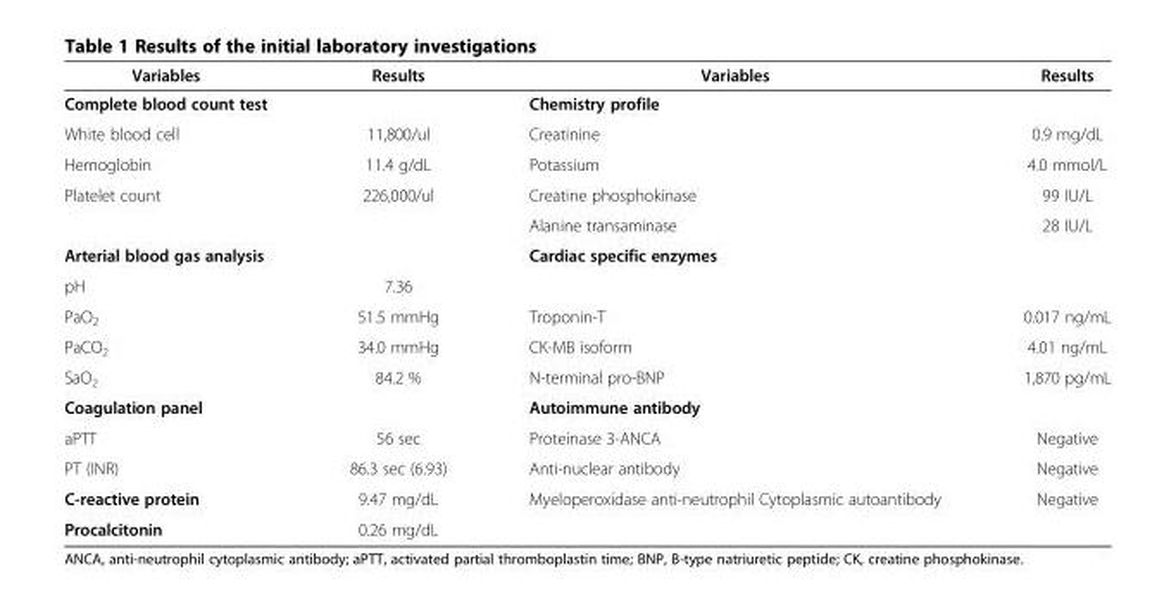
<table><thead><tr><td>Variables</td><td>Results</td><td>Variables</td><td>Results</td></tr></thead><tbody><tr><td>Complete blood count test</td><td></td><td>Chemistry profile</td><td></td></tr><tr><td>White blood cell</td><td>11,800/ul</td><td>Creatinine</td><td>0.9 mg/dL</td></tr><tr><td>Hemoglobin</td><td>11.4 g/dL</td><td>Potassium</td><td>4.0 mmol/L</td></tr><tr><td rowspan="2">Platelet count</td><td>226,000/ul</td><td>Creatine phosphokinase</td><td>99 IU/L</td></tr><tr><td></td><td>Alanine transaminase</td><td>28 IU/L</td></tr><tr><td>Arterial blood gas analysis</td><td></td><td>Cardiac specific enzymes</td><td></td></tr><tr><td>pH</td><td>7.36</td><td></td><td></td></tr><tr><td>PaO<sub>2</sub></td><td>51.5 mmHg</td><td>Troponin-T</td><td>0.017 ng/mL</td></tr><tr><td>PaCO<sub>2</sub></td><td>34.0 mmHg</td><td>CK-MB isoform</td><td>4.01 ng/mL</td></tr><tr><td>SaO<sub>2</sub></td><td>84.2 %</td><td>N-terminal pro-BNP</td><td>1,870 pg/mL</td></tr><tr><td>Coagulation panel</td><td></td><td>Autoimmune antibody</td><td></td></tr><tr><td>aPTT</td><td>56 sec</td><td>Proteinase 3-ANCA</td><td>Negative</td></tr><tr><td>PT (INR)</td><td>86.3 sec (6.93)</td><td>Anti-nuclear antibody</td><td>Negative</td></tr><tr><td>C-reactive protein</td><td>9.47 mg/dL</td><td>Myeloperoxidase anti-neutrophil Cytoplasmic autoantibody</td><td>Negative</td></tr><tr><td>Procalcitonin</td><td>0.26 mg/dL</td><td></td><td></td></tr></tbody></table>